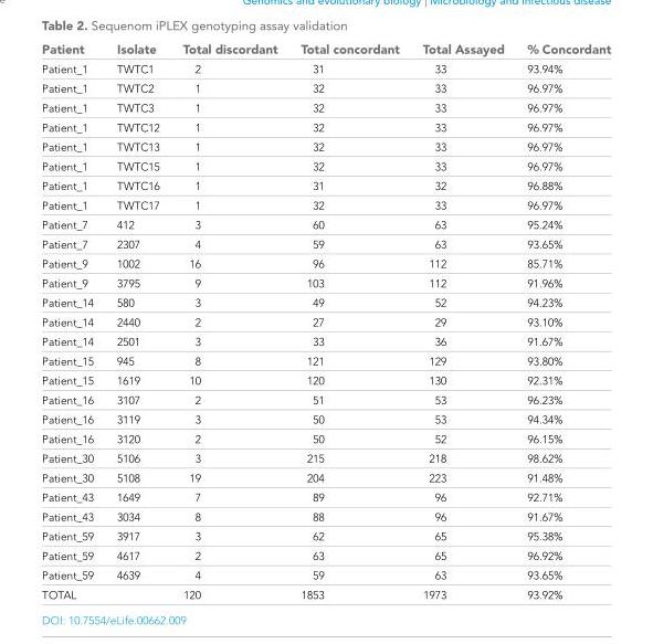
<table><thead><tr><td>Patient</td><td>Isolate</td><td>Total discordant</td><td>Total concordant</td><td>Total Assayed</td><td>% Concordant</td></tr></thead><tbody><tr><td>Patient_1</td><td>TWTC1</td><td>2</td><td>31</td><td>33</td><td>93.94%</td></tr><tr><td>Patient_1</td><td>TWTC2</td><td>1</td><td>32</td><td>33</td><td>96.97%</td></tr><tr><td>Patient_1</td><td>TWTC3</td><td>1</td><td>32</td><td>33</td><td>96.97%</td></tr><tr><td>Patient_1</td><td>TWTC12</td><td>1</td><td>32</td><td>33</td><td>96.97%</td></tr><tr><td>Patient_1</td><td>TWTC13</td><td>1</td><td>32</td><td>33</td><td>96.97%</td></tr><tr><td>Patient_1</td><td>TWTC15</td><td>1</td><td>32</td><td>33</td><td>96.97%</td></tr><tr><td>Patient_1</td><td>TWTC16</td><td>1</td><td>31</td><td>32</td><td>96.88%</td></tr><tr><td>Patient_1</td><td>TWTC17</td><td>1</td><td>32</td><td>33</td><td>96.97%</td></tr><tr><td>Patient_7</td><td>412</td><td>3</td><td>60</td><td>63</td><td>95.24%</td></tr><tr><td>Patient_7</td><td>2307</td><td>4</td><td>59</td><td>63</td><td>93.65%</td></tr><tr><td>Patient_9</td><td>1002</td><td>16</td><td>96</td><td>112</td><td>85.71%</td></tr><tr><td>Patient_9</td><td>3795</td><td>9</td><td>103</td><td>112</td><td>91.96%</td></tr><tr><td>Patient_14</td><td>580</td><td>3</td><td>49</td><td>52</td><td>94.23%</td></tr><tr><td>Patient_14</td><td>2440</td><td>2</td><td>27</td><td>29</td><td>93.10%</td></tr><tr><td>Patient_14</td><td>2501</td><td>3</td><td>33</td><td>36</td><td>91.67%</td></tr><tr><td>Patient_15</td><td>945</td><td>8</td><td>121</td><td>129</td><td>93.80%</td></tr><tr><td>Patient_15</td><td>1619</td><td>10</td><td>120</td><td>130</td><td>92.31%</td></tr><tr><td>Patient_16</td><td>3107</td><td>2</td><td>51</td><td>53</td><td>96.23%</td></tr><tr><td>Patient_16</td><td>3119</td><td>3</td><td>50</td><td>53</td><td>94.34%</td></tr><tr><td>Patient_16</td><td>3120</td><td>2</td><td>50</td><td>52</td><td>96.15%</td></tr><tr><td>Patient_30</td><td>5106</td><td>3</td><td>215</td><td>218</td><td>98.62%</td></tr><tr><td>Patient_30</td><td>5108</td><td>19</td><td>204</td><td>223</td><td>91.48%</td></tr><tr><td>Patient_43</td><td>1649</td><td>7</td><td>89</td><td>96</td><td>92.71%</td></tr><tr><td>Patient_43</td><td>3034</td><td>8</td><td>88</td><td>96</td><td>91.67%</td></tr><tr><td>Patient_59</td><td>3917</td><td>3</td><td>62</td><td>65</td><td>95.38%</td></tr><tr><td>Patient_59</td><td>4617</td><td>2</td><td>63</td><td>65</td><td>96.92%</td></tr><tr><td>Patient_59</td><td>4639</td><td>4</td><td>59</td><td>63</td><td>93.65%</td></tr><tr><td colspan="2">TOTAL</td><td>120</td><td>1853</td><td>1973</td><td>93.92%</td></tr></tbody></table>